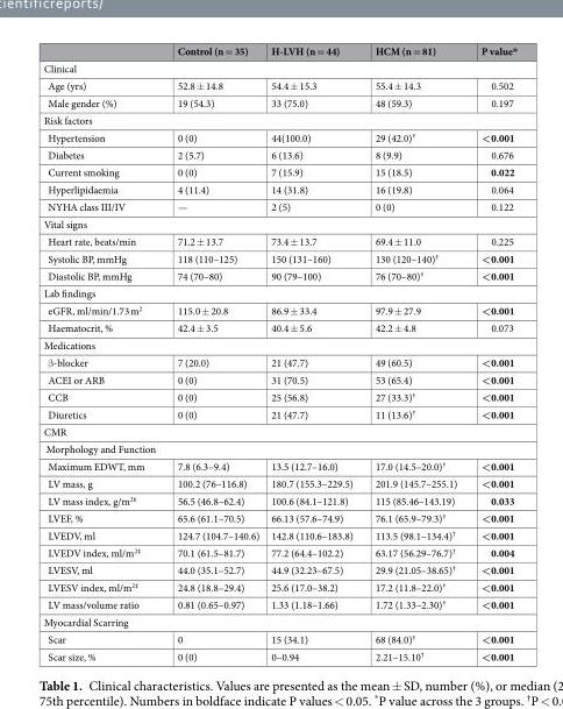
<table><thead><tr><td></td><td>Control (n = 35)</td><td>H-LVH (n = 44)</td><td>HCM (n = 81)</td><td>P value*</td></tr></thead><tbody><tr><td colspan="5">Clinical</td></tr><tr><td>Age (yrs)</td><td>52.8 ± 14.8</td><td>54.4 ± 15.3</td><td>55.4 ± 14.3</td><td>0.502</td></tr><tr><td>Male gender (%)</td><td>19 (54.3)</td><td>33 (75.0)</td><td>48 (59.3)</td><td>0.197</td></tr><tr><td colspan="5">Risk factors</td></tr><tr><td>Hypertension</td><td>0 (0)</td><td>44(100.0)</td><td>29 (42.0)<sup>†</sup></td><td>&lt;0.001</td></tr><tr><td>Diabetes</td><td>2 (5.7)</td><td>6 (13.6)</td><td>8 (9.9)</td><td>0.676</td></tr><tr><td>Current smoking</td><td>0 (0)</td><td>7 (15.9)</td><td>15 (18.5)</td><td>0.022</td></tr><tr><td>Hyperlipidaemia</td><td>4 (11.4)</td><td>14 (31.8)</td><td>16 (19.8)</td><td>0.064</td></tr><tr><td>NYHA class III/IV</td><td>—</td><td>2 (5)</td><td>0 (0)</td><td>0.122</td></tr><tr><td colspan="5">Vital signs</td></tr><tr><td>Heart rate, beats/min</td><td>71.2 ± 13.7</td><td>73.4 ± 13.7</td><td>69.4 ± 11.0</td><td>0.225</td></tr><tr><td>Systolic BP, mmHg</td><td>118 (110–125)</td><td>150 (131–160)</td><td>130 (120–140)<sup>†</sup></td><td>&lt;0.001</td></tr><tr><td>Diastolic BP, mmHg</td><td>74 (70–80)</td><td>90 (79–100)</td><td>76 (70–80)<sup>†</sup></td><td>&lt;0.001</td></tr><tr><td colspan="5">Lab findings</td></tr><tr><td>eGFR, ml/min/1.73 m<sup>2</sup></td><td>115.0 ± 20.8</td><td>86.9 ± 33.4</td><td>97.9 ± 27.9</td><td>&lt;0.001</td></tr><tr><td>Haematocrit, %</td><td>42.4 ± 3.5</td><td>40.4 ± 5.6</td><td>42.2 ± 4.8</td><td>0.073</td></tr><tr><td colspan="5">Medications</td></tr><tr><td>β-blocker</td><td>7 (20.0)</td><td>21 (47.7)</td><td>49 (60.5)</td><td>&lt;0.001</td></tr><tr><td>ACEI or ARB</td><td>0 (0)</td><td>31 (70.5)</td><td>53 (65.4)</td><td>&lt;0.001</td></tr><tr><td>CCB</td><td>0 (0)</td><td>25 (56.8)</td><td>27 (33.3)<sup>†</sup></td><td>&lt;0.001</td></tr><tr><td>Diuretics</td><td>0 (0)</td><td>21 (47.7)</td><td>11 (13.6)<sup>†</sup></td><td>&lt;0.001</td></tr><tr><td colspan="5">CMR</td></tr><tr><td colspan="5">Morphology and Function</td></tr><tr><td>Maximum EDWT, mm</td><td>7.8 (6.3–9.4)</td><td>13.5 (12.7–16.0)</td><td>17.0 (14.5–20.0)<sup>†</sup></td><td>&lt;0.001</td></tr><tr><td>LV mass, g</td><td>100.2 (76–116.8)</td><td>180.7 (155.3–229.5)</td><td>201.9 (145.7–255.1)</td><td>&lt;0.001</td></tr><tr><td>LV mass index, g/m<sup>2‡</sup></td><td>56.5 (46.8–62.4)</td><td>100.6 (84.1–121.8)</td><td>115 (85.46–143.19)</td><td>0.033</td></tr><tr><td>LVEF, %</td><td>65.6 (61.1–70.5)</td><td>66.13 (57.6–74.9)</td><td>76.1 (65.9–79.3)<sup>†</sup></td><td>&lt;0.001</td></tr><tr><td>LVEDV, ml</td><td>124.7 (104.7–140.6)</td><td>142.8 (110.6–183.8)</td><td>113.5 (98.1–134.4)<sup>†</sup></td><td>&lt;0.001</td></tr><tr><td>LVEDV index, ml/m<sup>2‡</sup></td><td>70.1 (61.5–81.7)</td><td>77.2 (64.4–102.2)</td><td>63.17 (56.29–76.7)<sup>†</sup></td><td>0.004</td></tr><tr><td>LVESV, ml</td><td>44.0 (35.1–52.7)</td><td>44.9 (32.23–67.5)</td><td>29.9 (21.05–38.65)<sup>†</sup></td><td>&lt;0.001</td></tr><tr><td>LVESV index, ml/m<sup>2‡</sup></td><td>24.8 (18.8–29.4)</td><td>25.6 (17.0–38.2)</td><td>17.2 (11.8–22.0)<sup>†</sup></td><td>&lt;0.001</td></tr><tr><td>LV mass/volume ratio</td><td>0.81 (0.65–0.97)</td><td>1.33 (1.18–1.66)</td><td>1.72 (1.33–2.30)<sup>†</sup></td><td>&lt;0.001</td></tr><tr><td colspan="5">Myocardial Scarring</td></tr><tr><td>Scar</td><td>0</td><td>15 (34.1)</td><td>68 (84.0)<sup>†</sup></td><td>&lt;0.001</td></tr><tr><td>Scar size, %</td><td>0 (0)</td><td>0–0.94</td><td>2.21–15.10<sup>†</sup></td><td>&lt;0.001</td></tr></tbody></table>